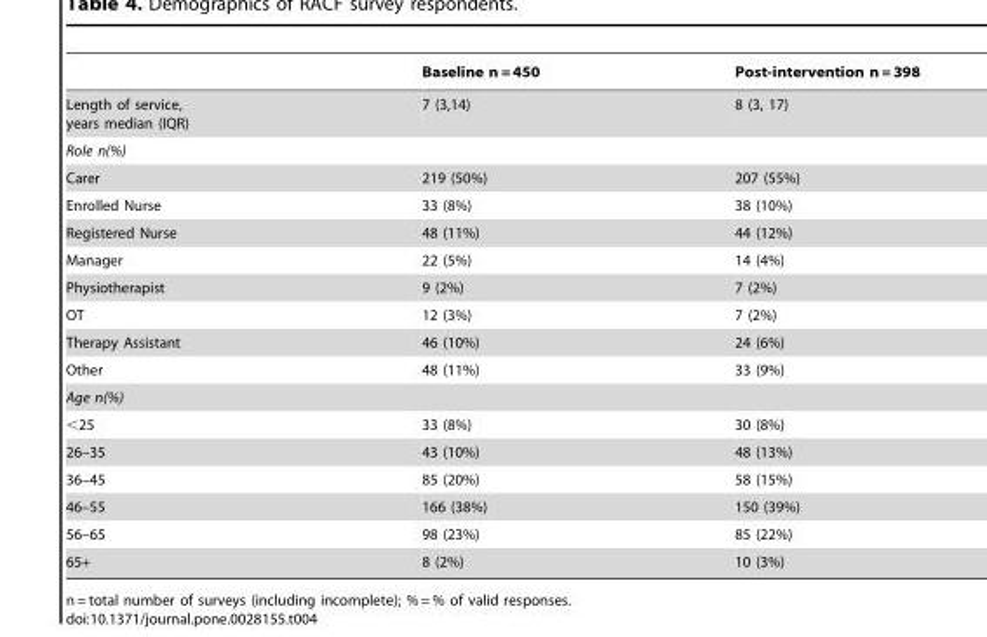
<table><thead><tr><td></td><td>Baseline n = 450</td><td>Post-intervention n = 398</td></tr></thead><tbody><tr><td>Length of service, years median (IQR)</td><td>7 (3,14)</td><td>8 (3, 17)</td></tr><tr><td colspan="3">Role n(%)</td></tr><tr><td>Carer</td><td>219 (50%)</td><td>207 (55%)</td></tr><tr><td>Enrolled Nurse</td><td>33 (8%)</td><td>38 (10%)</td></tr><tr><td>Registered Nurse</td><td>48 (11%)</td><td>44 (12%)</td></tr><tr><td>Manager</td><td>22 (5%)</td><td>14 (4%)</td></tr><tr><td>Physiotherapist</td><td>9 (2%)</td><td>7 (2%)</td></tr><tr><td>OT</td><td>12 (3%)</td><td>7 (2%)</td></tr><tr><td>Therapy Assistant</td><td>46 (10%)</td><td>24 (6%)</td></tr><tr><td>Other</td><td>48 (11%)</td><td>33 (9%)</td></tr><tr><td colspan="3">Age n(%)</td></tr><tr><td>&lt;25</td><td>33 (8%)</td><td>30 (8%)</td></tr><tr><td>26–35</td><td>43 (10%)</td><td>48 (13%)</td></tr><tr><td>36–45</td><td>85 (20%)</td><td>58 (15%)</td></tr><tr><td>46–55</td><td>166 (38%)</td><td>150 (39%)</td></tr><tr><td>56–65</td><td>98 (23%)</td><td>85 (22%)</td></tr><tr><td>65+</td><td>8 (2%)</td><td>10 (3%)</td></tr></tbody></table>